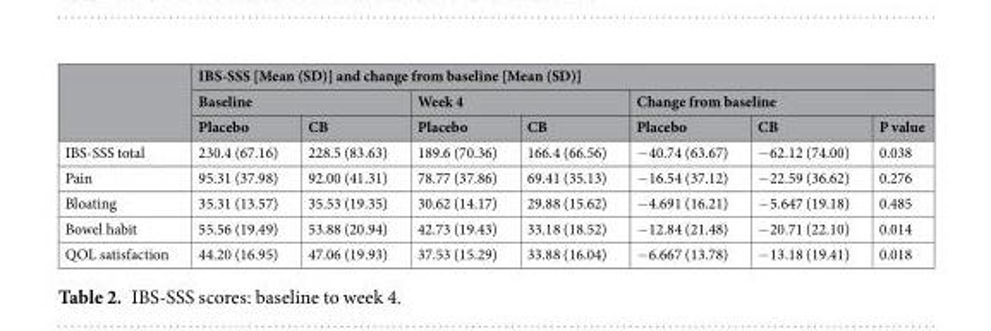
<table><thead><tr><td rowspan="3"></td><td colspan="7">IBS-SSS [Mean (SD)] and change from baseline [Mean (SD)]</td></tr><tr><td colspan="2">Baseline</td><td colspan="2">Week 4</td><td colspan="3">Change from baseline</td></tr><tr><td>Placebo</td><td>CB</td><td>Placebo</td><td>CB</td><td>Placebo</td><td>CB</td><td>P value</td></tr></thead><tbody><tr><td>IBS-SSS total</td><td>230.4 (67.16)</td><td>228.5 (83.63)</td><td>189.6 (70.36)</td><td>166.4 (66.56)</td><td>−40.74 (63.67)</td><td>−62.12 (74.00)</td><td>0.038</td></tr><tr><td>Pain</td><td>95.31 (37.98)</td><td>92.00 (41.31)</td><td>78.77 (37.86)</td><td>69.41 (35.13)</td><td>−16.54 (37.12)</td><td>−22.59 (36.62)</td><td>0.276</td></tr><tr><td>Bloating</td><td>35.31 (13.57)</td><td>35.53 (19.35)</td><td>30.62 (14.17)</td><td>29.88 (15.62)</td><td>−4.691 (16.21)</td><td>−5.647 (19.18)</td><td>0.485</td></tr><tr><td>Bowel habit</td><td>55.56 (19.49)</td><td>53.88 (20.94)</td><td>42.73 (19.43)</td><td>33.18 (18.52)</td><td>−12.84 (21.48)</td><td>−20.71 (22.10)</td><td>0.014</td></tr><tr><td>QOL satisfaction</td><td>44.20 (16.95)</td><td>47.06 (19.93)</td><td>37.53 (15.29)</td><td>33.88 (16.04)</td><td>−6.667 (13.78)</td><td>−13.18 (19.41)</td><td>0.018</td></tr></tbody></table>